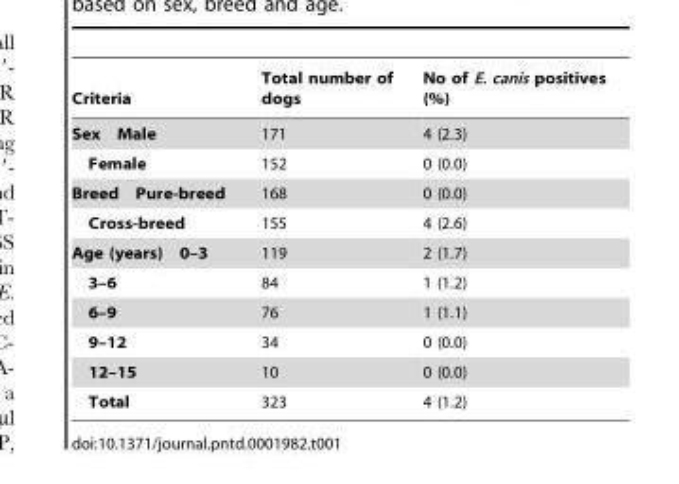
<table><thead><tr><td>Criteria</td><td>Total number of dogs</td><td>No of E. canis positives (%)</td></tr></thead><tbody><tr><td>Sex Male</td><td>171</td><td>4 (2.3)</td></tr><tr><td>Female</td><td>152</td><td>0 (0.0)</td></tr><tr><td>Breed Pure-breed</td><td>168</td><td>0 (0.0)</td></tr><tr><td>Cross-breed</td><td>155</td><td>4 (2.6)</td></tr><tr><td>Age (years) 0–3</td><td>119</td><td>2 (1.7)</td></tr><tr><td>3–6</td><td>84</td><td>1 (1.2)</td></tr><tr><td>6–9</td><td>76</td><td>1 (1.1)</td></tr><tr><td>9–12</td><td>34</td><td>0 (0.0)</td></tr><tr><td>12–15</td><td>10</td><td>0 (0.0)</td></tr><tr><td>Total</td><td>323</td><td>4 (1.2)</td></tr></tbody></table>